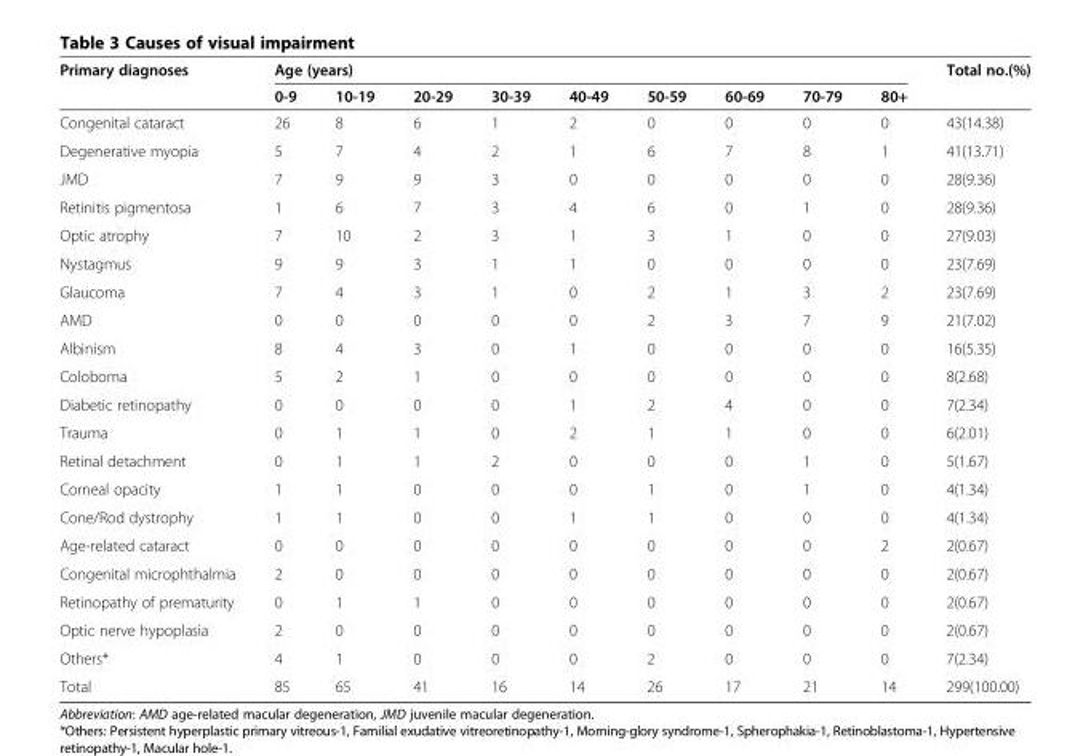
<table><thead><tr><td rowspan="2">Primary diagnoses</td><td colspan="9">Age (years)</td><td rowspan="2">Total no.(%)</td></tr><tr><td>0-9</td><td>10-19</td><td>20-29</td><td>30-39</td><td>40-49</td><td>50-59</td><td>60-69</td><td>70-79</td><td>80+</td></tr></thead><tbody><tr><td>Congenital cataract</td><td>26</td><td>8</td><td>6</td><td>1</td><td>2</td><td>0</td><td>0</td><td>0</td><td>0</td><td>43(14.38)</td></tr><tr><td>Degenerative myopia</td><td>5</td><td>7</td><td>4</td><td>2</td><td>1</td><td>6</td><td>7</td><td>8</td><td>1</td><td>41(13.71)</td></tr><tr><td>JMD</td><td>7</td><td>9</td><td>9</td><td>3</td><td>0</td><td>0</td><td>0</td><td>0</td><td>0</td><td>28(9.36)</td></tr><tr><td>Retinitis pigmentosa</td><td>1</td><td>6</td><td>7</td><td>3</td><td>4</td><td>6</td><td>0</td><td>1</td><td>0</td><td>28(9.36)</td></tr><tr><td>Optic atrophy</td><td>7</td><td>10</td><td>2</td><td>3</td><td>1</td><td>3</td><td>1</td><td>0</td><td>0</td><td>27(9.03)</td></tr><tr><td>Nystagmus</td><td>9</td><td>9</td><td>3</td><td>1</td><td>1</td><td>0</td><td>0</td><td>0</td><td>0</td><td>23(7.69)</td></tr><tr><td>Glaucoma</td><td>7</td><td>4</td><td>3</td><td>1</td><td>0</td><td>2</td><td>1</td><td>3</td><td>2</td><td>23(7.69)</td></tr><tr><td>AMD</td><td>0</td><td>0</td><td>0</td><td>0</td><td>0</td><td>2</td><td>3</td><td>7</td><td>9</td><td>21(7.02)</td></tr><tr><td>Albinism</td><td>8</td><td>4</td><td>3</td><td>0</td><td>1</td><td>0</td><td>0</td><td>0</td><td>0</td><td>16(5.35)</td></tr><tr><td>Coloboma</td><td>5</td><td>2</td><td>1</td><td>0</td><td>0</td><td>0</td><td>0</td><td>0</td><td>0</td><td>8(2.68)</td></tr><tr><td>Diabetic retinopathy</td><td>0</td><td>0</td><td>0</td><td>0</td><td>1</td><td>2</td><td>4</td><td>0</td><td>0</td><td>7(2.34)</td></tr><tr><td>Trauma</td><td>0</td><td>1</td><td>1</td><td>0</td><td>2</td><td>1</td><td>1</td><td>0</td><td>0</td><td>6(2.01)</td></tr><tr><td>Retinal detachment</td><td>0</td><td>1</td><td>1</td><td>2</td><td>0</td><td>0</td><td>0</td><td>1</td><td>0</td><td>5(1.67)</td></tr><tr><td>Corneal opacity</td><td>1</td><td>1</td><td>0</td><td>0</td><td>0</td><td>1</td><td>0</td><td>1</td><td>0</td><td>4(1.34)</td></tr><tr><td>Cone/Rod dystrophy</td><td>1</td><td>1</td><td>0</td><td>0</td><td>1</td><td>1</td><td>0</td><td>0</td><td>0</td><td>4(1.34)</td></tr><tr><td>Age-related cataract</td><td>0</td><td>0</td><td>0</td><td>0</td><td>0</td><td>0</td><td>0</td><td>0</td><td>2</td><td>2(0.67)</td></tr><tr><td>Congenital microphthalmia</td><td>2</td><td>0</td><td>0</td><td>0</td><td>0</td><td>0</td><td>0</td><td>0</td><td>0</td><td>2(0.67)</td></tr><tr><td>Retinopathy of prematurity</td><td>0</td><td>1</td><td>1</td><td>0</td><td>0</td><td>0</td><td>0</td><td>0</td><td>0</td><td>2(0.67)</td></tr><tr><td>Optic nerve hypoplasia</td><td>2</td><td>0</td><td>0</td><td>0</td><td>0</td><td>0</td><td>0</td><td>0</td><td>0</td><td>2(0.67)</td></tr><tr><td>Others*</td><td>4</td><td>1</td><td>0</td><td>0</td><td>0</td><td>2</td><td>0</td><td>0</td><td>0</td><td>7(2.34)</td></tr><tr><td>Total</td><td>85</td><td>65</td><td>41</td><td>16</td><td>14</td><td>26</td><td>17</td><td>21</td><td>14</td><td>299(100.00)</td></tr></tbody></table>